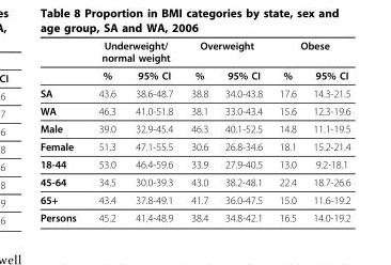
<table><thead><tr><td rowspan="2"></td><td colspan="2">Underweight/ normal weight</td><td colspan="2">Overweight</td><td colspan="2">Obese</td></tr><tr><td>%</td><td>95% CI</td><td>%</td><td>95% CI</td><td>%</td><td>95% CI</td></tr></thead><tbody><tr><td>SA</td><td>43.6</td><td>38.6-48.7</td><td>38.8</td><td>34.0-43.8</td><td>17.6</td><td>14.3-21.5</td></tr><tr><td>WA</td><td>46.3</td><td>41.0-51.8</td><td>38.1</td><td>33.0-43.4</td><td>15.6</td><td>12.3-19.6</td></tr><tr><td>Male</td><td>39.0</td><td>32.9-45.4</td><td>46.3</td><td>40.1-52.5</td><td>14.8</td><td>11.1-19.5</td></tr><tr><td>Female</td><td>51.3</td><td>47.1-55.5</td><td>30.6</td><td>26.8-34.6</td><td>18.1</td><td>15.2-21.4</td></tr><tr><td>18-44</td><td>53.0</td><td>46.4-59.6</td><td>33.9</td><td>27.9-40.5</td><td>13.0</td><td>9.2-18.1</td></tr><tr><td>45-64</td><td>34.5</td><td>30.0-39.3</td><td>43.0</td><td>38.2-48.1</td><td>22.4</td><td>18.7-26.6</td></tr><tr><td>65+</td><td>43.4</td><td>37.8-49.1</td><td>41.7</td><td>36.0-47.5</td><td>15.0</td><td>11.6-19.2</td></tr><tr><td>Persons</td><td>45.2</td><td>41.4-48.9</td><td>38.4</td><td>34.8-42.1</td><td>16.5</td><td>14.0-19.2</td></tr></tbody></table>